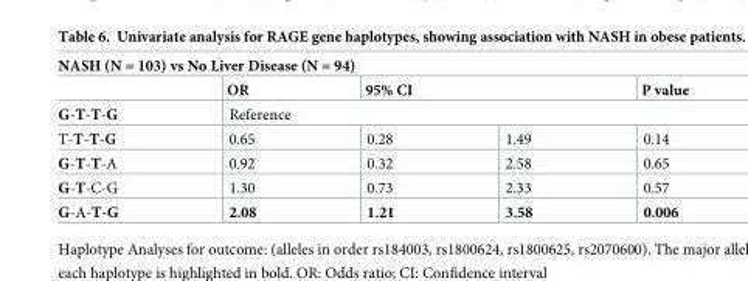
<table><thead><tr><td colspan="5">NASH (N = 103) vs No Liver Disease (N = 94)</td></tr><tr><td rowspan="3">G-T-T-G T-T-T-G</td><td>OR</td><td colspan="2">95% CI</td><td>P value</td></tr><tr><td colspan="4">Reference</td></tr><tr><td>0.65</td><td>0.28</td><td>1.49</td><td>0.14</td></tr></thead><tbody><tr><td>G-T-T-A</td><td>0.92</td><td>0.32</td><td>2.58</td><td>0.65</td></tr><tr><td>G-T-C-G</td><td>1.30</td><td>0.73</td><td>2.33</td><td>0.57</td></tr><tr><td>G-A-T-G</td><td>2.08</td><td>1.21</td><td>3.58</td><td>0.006</td></tr></tbody></table>